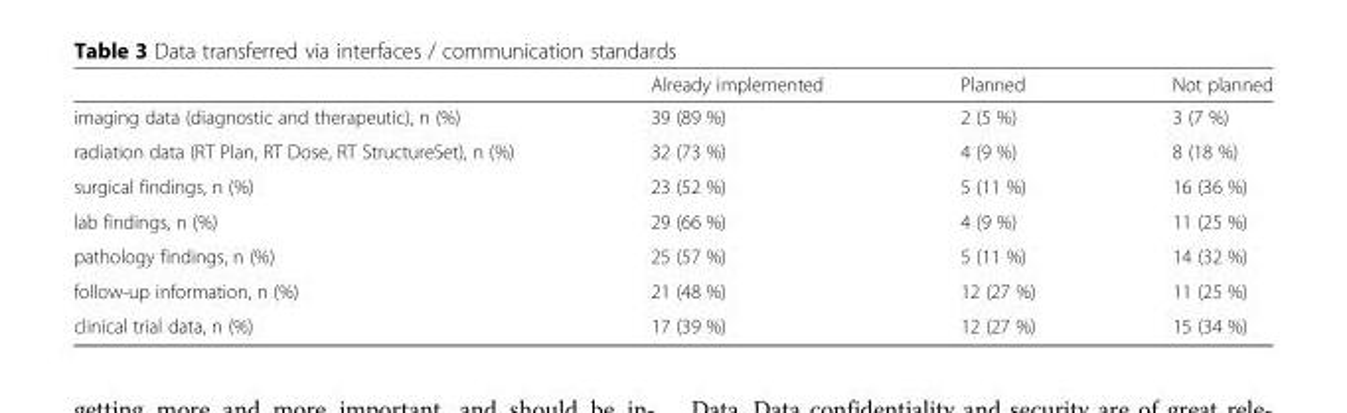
<table><thead><tr><td></td><td>Already implemented</td><td>Planned</td><td>Not planned</td></tr></thead><tbody><tr><td>imaging data (diagnostic and therapeutic), n (%)</td><td>39 (89 %)</td><td>2 (5 %)</td><td>3 (7 %)</td></tr><tr><td>radiation data (RT Plan, RT Dose, RT StructureSet), n (%)</td><td>32 (73 %)</td><td>4 (9 %)</td><td>8 (18 %)</td></tr><tr><td>surgical findings, n (%)</td><td>23 (52 %)</td><td>5 (11 %)</td><td>16 (36 %)</td></tr><tr><td>lab findings, n (%)</td><td>29 (66 %)</td><td>4 (9 %)</td><td>11 (25 %)</td></tr><tr><td>pathology findings, n (%)</td><td>25 (57 %)</td><td>5 (11 %)</td><td>14 (32 %)</td></tr><tr><td>follow-up information, n (%)</td><td>21 (48 %)</td><td>12 (27 %)</td><td>11 (25 %)</td></tr><tr><td>clinical trial data, n (%)</td><td>17 (39 %)</td><td>12 (27 %)</td><td>15 (34 %)</td></tr></tbody></table>